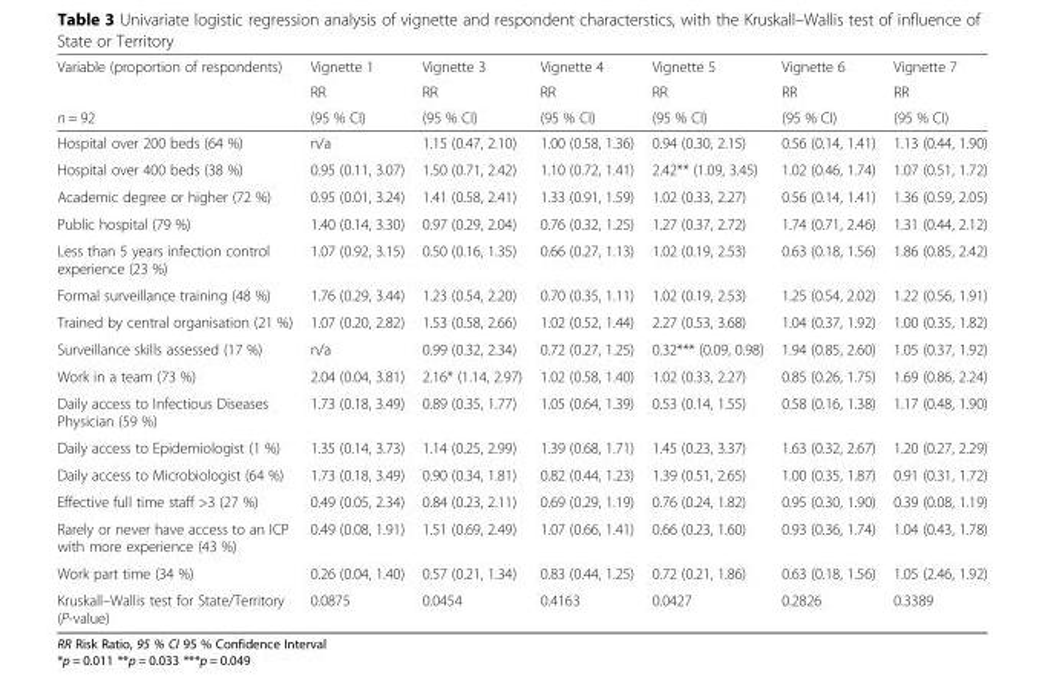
<table><thead><tr><td rowspan="3">Variable (proportion of respondents) n = 92</td><td rowspan="3">Vignette 1 RR (95 % CI)</td><td rowspan="3">Vignette 3 RR (95 % CI)</td><td rowspan="3">Vignette 4 RR (95 % CI)</td><td rowspan="3">Vignette 5 RR (95 % CI)</td><td rowspan="3">Vignette 6 RR (95 % CI)</td><td rowspan="3">Vignette 7 RR (95 % CI)</td></tr><tr></tr><tr></tr></thead><tbody><tr><td>Hospital over 200 beds (64 %)</td><td>n/a</td><td>1.15 (0.47, 2.10)</td><td>1.00 (0.58, 1.36)</td><td>0.94 (0.30, 2.15)</td><td>0.56 (0.14, 1.41)</td><td>1.13 (0.44, 1.90)</td></tr><tr><td>Hospital over 400 beds (38 %)</td><td>0.95 (0.11, 3.07)</td><td>1.50 (0.71, 2.42)</td><td>1.10 (0.72, 1.41)</td><td>2.42** (1.09, 3.45)</td><td>1.02 (0.46, 1.74)</td><td>1.07 (0.51, 1.72)</td></tr><tr><td>Academic degree or higher (72 %)</td><td>0.95 (0.01, 3.24)</td><td>1.41 (0.58, 2.41)</td><td>1.33 (0.91, 1.59)</td><td>1.02 (0.33, 2.27)</td><td>0.56 (0.14, 1.41)</td><td>1.36 (0.59, 2.05)</td></tr><tr><td>Public hospital (79 %)</td><td>1.40 (0.14, 3.30)</td><td>0.97 (0.29, 2.04)</td><td>0.76 (0.32, 1.25)</td><td>1.27 (0.37, 2.72)</td><td>1.74 (0.71, 2.46)</td><td>1.31 (0.44, 2.12)</td></tr><tr><td>Less than 5 years infection control experience (23 %)</td><td>1.07 (0.92, 3.15)</td><td>0.50 (0.16, 1.35)</td><td>0.66 (0.27, 1.13)</td><td>1.02 (0.19, 2.53)</td><td>0.63 (0.18, 1.56)</td><td>1.86 (0.85, 2.42)</td></tr><tr><td>Formal surveillance training (48 %)</td><td>1.76 (0.29, 3.44)</td><td>1.23 (0.54, 2.20)</td><td>0.70 (0.35, 1.11)</td><td>1.02 (0.19, 2.53)</td><td>1.25 (0.54, 2.02)</td><td>1.22 (0.56, 1.91)</td></tr><tr><td>Trained by central organisation (21 %)</td><td>1.07 (0.20, 2.82)</td><td>1.53 (0.58, 2.66)</td><td>1.02 (0.52, 1.44)</td><td>2.27 (0.53, 3.68)</td><td>1.04 (0.37, 1.92)</td><td>1.00 (0.35, 1.82)</td></tr><tr><td>Surveillance skills assessed (17 %)</td><td>n/a</td><td>0.99 (0.32, 2.34)</td><td>0.72 (0.27, 1.25)</td><td>0.32*** (0.09, 0.98)</td><td>1.94 (0.85, 2.60)</td><td>1.05 (0.37, 1.92)</td></tr><tr><td>Work in a team (73 %)</td><td>2.04 (0.04, 3.81)</td><td>2.16* (1.14, 2.97)</td><td>1.02 (0.58, 1.40)</td><td>1.02 (0.33, 2.27)</td><td>0.85 (0.26, 1.75)</td><td>1.69 (0.86, 2.24)</td></tr><tr><td>Daily access to Infectious Diseases Physician (59 %)</td><td>1.73 (0.18, 3.49)</td><td>0.89 (0.35, 1.77)</td><td>1.05 (0.64, 1.39)</td><td>0.53 (0.14, 1.55)</td><td>0.58 (0.16, 1.38)</td><td>1.17 (0.48, 1.90)</td></tr><tr><td>Daily access to Epidemiologist (1 %)</td><td>1.35 (0.14, 3.73)</td><td>1.14 (0.25, 2.99)</td><td>1.39 (0.68, 1.71)</td><td>1.45 (0.23, 3.37)</td><td>1.63 (0.32, 2.67)</td><td>1.20 (0.27, 2.29)</td></tr><tr><td>Daily access to Microbiologist (64 %)</td><td>1.73 (0.18, 3.49)</td><td>0.90 (0.34, 1.81)</td><td>0.82 (0.44, 1.23)</td><td>1.39 (0.51, 2.65)</td><td>1.00 (0.35, 1.87)</td><td>0.91 (0.31, 1.72)</td></tr><tr><td>Effective full time staff &gt;3 (27 %)</td><td>0.49 (0.05, 2.34)</td><td>0.84 (0.23, 2.11)</td><td>0.69 (0.29, 1.19)</td><td>0.76 (0.24, 1.82)</td><td>0.95 (0.30, 1.90)</td><td>0.39 (0.08, 1.19)</td></tr><tr><td>Rarely or never have access to an ICP with more experience (43 %)</td><td>0.49 (0.08, 1.91)</td><td>1.51 (0.69, 2.49)</td><td>1.07 (0.66, 1.41)</td><td>0.66 (0.23, 1.60)</td><td>0.93 (0.36, 1.74)</td><td>1.04 (0.43, 1.78)</td></tr><tr><td>Work part time (34 %)</td><td>0.26 (0.04, 1.40)</td><td>0.57 (0.21, 1.34)</td><td>0.83 (0.44, 1.25)</td><td>0.72 (0.21, 1.86)</td><td>0.63 (0.18, 1.56)</td><td>1.05 (2.46, 1.92)</td></tr><tr><td>Kruskall–Wallis test for State/Territory (P-value)</td><td>0.0875</td><td>0.0454</td><td>0.4163</td><td>0.0427</td><td>0.2826</td><td>0.3389</td></tr></tbody></table>